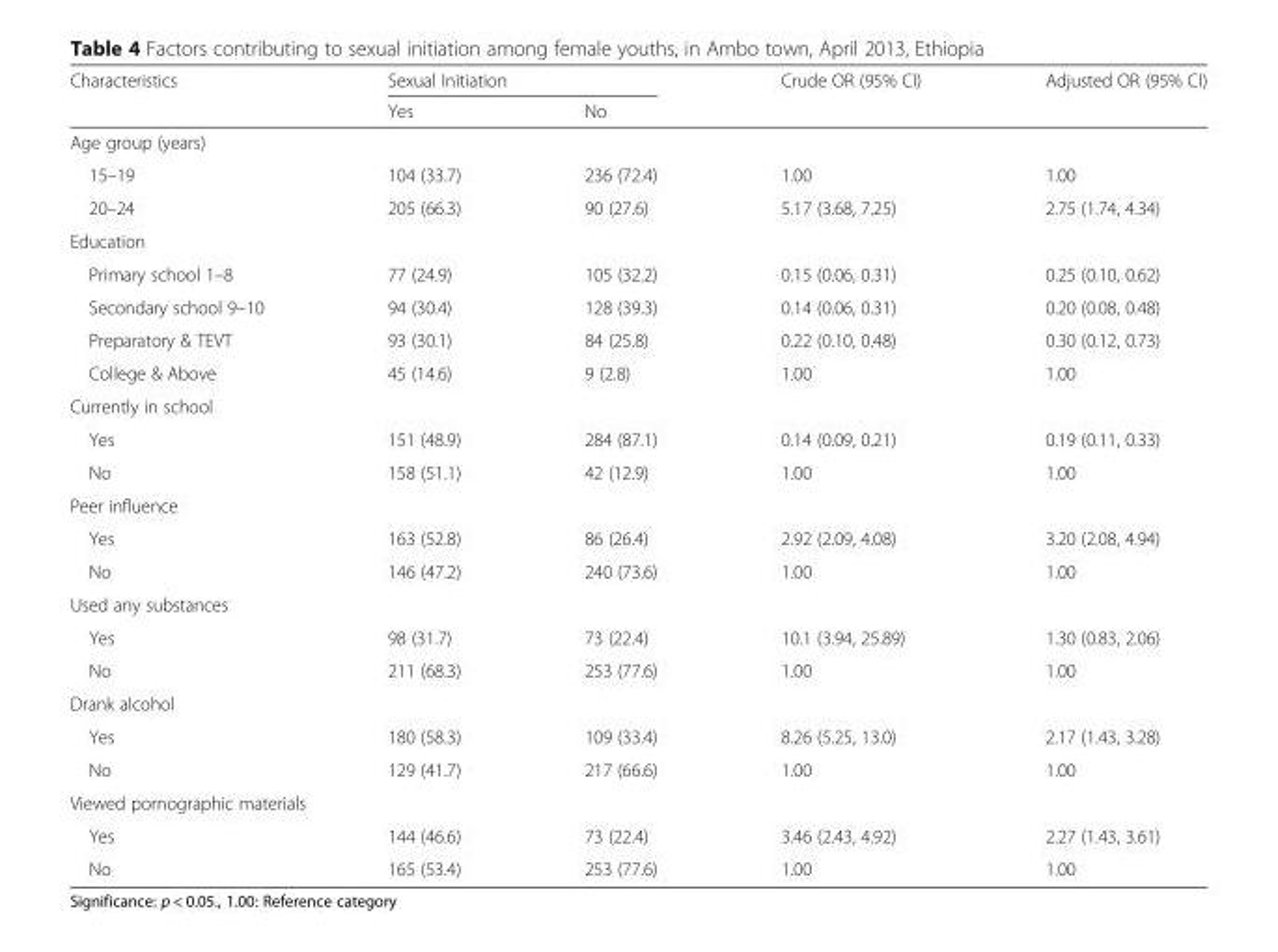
<table><thead><tr><td rowspan="2">Characteristics</td><td colspan="2">Sexual Initiation</td><td rowspan="2">Crude OR (95% CI)</td><td rowspan="2">Adjusted OR (95% CI)</td></tr><tr><td>Yes</td><td>No</td></tr></thead><tbody><tr><td colspan="5">Age group (years)</td></tr><tr><td>15–19</td><td>104 (33.7)</td><td>236 (72.4)</td><td>1.00</td><td>1.00</td></tr><tr><td>20–24</td><td>205 (66.3)</td><td>90 (27.6)</td><td>5.17 (3.68, 7.25)</td><td>2.75 (1.74, 4.34)</td></tr><tr><td colspan="5">Education</td></tr><tr><td>Primary school 1–8</td><td>77 (24.9)</td><td>105 (32.2)</td><td>0.15 (0.06, 0.31)</td><td>0.25 (0.10, 0.62)</td></tr><tr><td>Secondary school 9–10</td><td>94 (30.4)</td><td>128 (39.3)</td><td>0.14 (0.06, 0.31)</td><td>0.20 (0.08, 0.48)</td></tr><tr><td>Preparatory &amp; TEVT</td><td>93 (30.1)</td><td>84 (25.8)</td><td>0.22 (0.10, 0.48)</td><td>0.30 (0.12, 0.73)</td></tr><tr><td>College &amp; Above</td><td>45 (14.6)</td><td>9 (2.8)</td><td>1.00</td><td>1.00</td></tr><tr><td colspan="5">Currently in school</td></tr><tr><td>Yes</td><td>151 (48.9)</td><td>284 (87.1)</td><td>0.14 (0.09, 0.21)</td><td>0.19 (0.11, 0.33)</td></tr><tr><td>No</td><td>158 (51.1)</td><td>42 (12.9)</td><td>1.00</td><td>1.00</td></tr><tr><td colspan="5">Peer influence</td></tr><tr><td>Yes</td><td>163 (52.8)</td><td>86 (26.4)</td><td>2.92 (2.09, 4.08)</td><td>3.20 (2.08, 4.94)</td></tr><tr><td>No</td><td>146 (47.2)</td><td>240 (73.6)</td><td>1.00</td><td>1.00</td></tr><tr><td colspan="5">Used any substances</td></tr><tr><td>Yes</td><td>98 (31.7)</td><td>73 (22.4)</td><td>10.1 (3.94, 25.89)</td><td>1.30 (0.83, 2.06)</td></tr><tr><td>No</td><td>211 (68.3)</td><td>253 (77.6)</td><td>1.00</td><td>1.00</td></tr><tr><td colspan="5">Drank alcohol</td></tr><tr><td>Yes</td><td>180 (58.3)</td><td>109 (33.4)</td><td>8.26 (5.25, 13.0)</td><td>2.17 (1.43, 3.28)</td></tr><tr><td>No</td><td>129 (41.7)</td><td>217 (66.6)</td><td>1.00</td><td>1.00</td></tr><tr><td colspan="5">Viewed pornographic materials</td></tr><tr><td>Yes</td><td>144 (46.6)</td><td>73 (22.4)</td><td>3.46 (2.43, 4.92)</td><td>2.27 (1.43, 3.61)</td></tr><tr><td>No</td><td>165 (53.4)</td><td>253 (77.6)</td><td>1.00</td><td>1.00</td></tr></tbody></table>